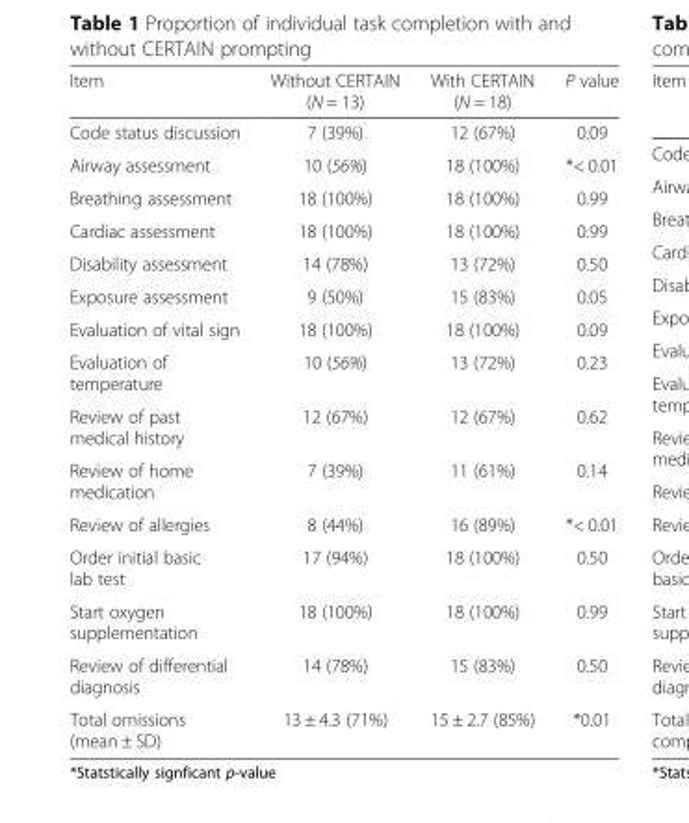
<table><thead><tr><td>Item</td><td>Without CERTAIN (N = 13)</td><td>With CERTAIN (N = 18)</td><td>P value</td></tr></thead><tbody><tr><td>Code status discussion</td><td>7 (39%)</td><td>12 (67%)</td><td>0.09</td></tr><tr><td>Airway assessment</td><td>10 (56%)</td><td>18 (100%)</td><td>*&lt; 0.01</td></tr><tr><td>Breathing assessment</td><td>18 (100%)</td><td>18 (100%)</td><td>0.99</td></tr><tr><td>Cardiac assessment</td><td>18 (100%)</td><td>18 (100%)</td><td>0.99</td></tr><tr><td>Disability assessment</td><td>14 (78%)</td><td>13 (72%)</td><td>0.50</td></tr><tr><td>Exposure assessment</td><td>9 (50%)</td><td>15 (83%)</td><td>0.05</td></tr><tr><td>Evaluation of vital sign</td><td>18 (100%)</td><td>18 (100%)</td><td>0.09</td></tr><tr><td>Evaluation of temperature</td><td>10 (56%)</td><td>13 (72%)</td><td>0.23</td></tr><tr><td>Review of past medical history</td><td>12 (67%)</td><td>12 (67%)</td><td>0.62</td></tr><tr><td>Review of home medication</td><td>7 (39%)</td><td>11 (61%)</td><td>0.14</td></tr><tr><td>Review of allergies</td><td>8 (44%)</td><td>16 (89%)</td><td>*&lt; 0.01</td></tr><tr><td>Order initial basic lab test</td><td>17 (94%)</td><td>18 (100%)</td><td>0.50</td></tr><tr><td>Start oxygen supplementation</td><td>18 (100%)</td><td>18 (100%)</td><td>0.99</td></tr><tr><td>Review of differential diagnosis</td><td>14 (78%)</td><td>15 (83%)</td><td>0.50</td></tr><tr><td>Total omissions (mean ± SD)</td><td>13 ± 4.3 (71%)</td><td>15 ± 2.7 (85%)</td><td>*0.01</td></tr></tbody></table>